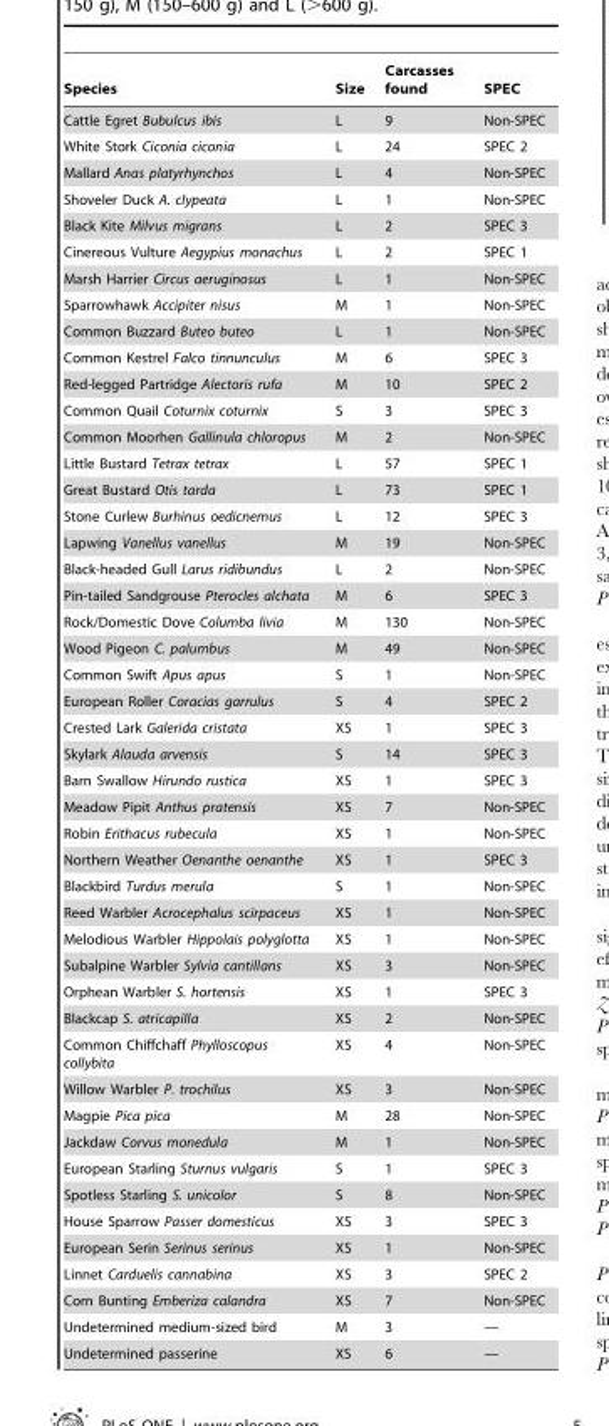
<table><thead><tr><td>Species</td><td>Size</td><td>Carcasses found</td><td>SPEC</td></tr></thead><tbody><tr><td>Cattle Egret Bubulcus ibis</td><td>L</td><td>9</td><td>Non-SPEC</td></tr><tr><td>White Stork Ciconia ciconia</td><td>L</td><td>24</td><td>SPEC 2</td></tr><tr><td>Mallard Anas platyrhynchos</td><td>L</td><td>4</td><td>Non-SPEC</td></tr><tr><td>Shoveler Duck A. clypeata</td><td>L</td><td>1</td><td>Non-SPEC</td></tr><tr><td>Black Kite Milvus migrans</td><td>L</td><td>2</td><td>SPEC 3</td></tr><tr><td>Cinereous Vulture Aegypius monachus</td><td>L</td><td>2</td><td>SPEC 1</td></tr><tr><td>Marsh Harrier Circus aeruginosus</td><td>L</td><td>1</td><td>Non-SPEC</td></tr><tr><td>Sparrowhawk Accipiter nisus</td><td>M</td><td>1</td><td>Non-SPEC</td></tr><tr><td>Common Buzzard Buteo buteo</td><td>L</td><td>1</td><td>Non-SPEC</td></tr><tr><td>Common Kestrel Falco tinnunculus</td><td>M</td><td>6</td><td>SPEC 3</td></tr><tr><td>Red-legged Partridge Alectoris rufa</td><td>M</td><td>10</td><td>SPEC 2</td></tr><tr><td>Common Quail Coturnix coturnix</td><td>S</td><td>3</td><td>SPEC 3</td></tr><tr><td>Common Moorhen Gallinula chloropus</td><td>M</td><td>2</td><td>Non-SPEC</td></tr><tr><td>Little Bustard Tetrax tetrax</td><td>L</td><td>57</td><td>SPEC 1</td></tr><tr><td>Great Bustard Otis tarda</td><td>L</td><td>73</td><td>SPEC 1</td></tr><tr><td>Stone Curlew Burhinus oedicnemus</td><td>L</td><td>12</td><td>SPEC 3</td></tr><tr><td>Lapwing Vanellus vanellus</td><td>M</td><td>19</td><td>Non-SPEC</td></tr><tr><td>Black-headed Gull Larus ridibundus</td><td>L</td><td>2</td><td>Non-SPEC</td></tr><tr><td>Pin-tailed Sandgrouse Pterocles alchata</td><td>M</td><td>6</td><td>SPEC 3</td></tr><tr><td>Rock/Domestic Dove Columba livia</td><td>M</td><td>130</td><td>Non-SPEC</td></tr><tr><td>Wood Pigeon C. palumbus</td><td>M</td><td>49</td><td>Non-SPEC</td></tr><tr><td>Common Swift Apus apus</td><td>S</td><td>1</td><td>Non-SPEC</td></tr><tr><td>European Roller Coracias garrulus</td><td>S</td><td>4</td><td>SPEC 2</td></tr><tr><td>Crested Lark Galerida cristata</td><td>XS</td><td>1</td><td>SPEC 3</td></tr><tr><td>Skylark Alauda arvensis</td><td>S</td><td>14</td><td>SPEC 3</td></tr><tr><td>Barn Swallow Hirundo rustica</td><td>XS</td><td>1</td><td>SPEC 3</td></tr><tr><td>Meadow Pipit Anthus pratensis</td><td>XS</td><td>7</td><td>Non-SPEC</td></tr><tr><td>Robin Erithacus rubecula</td><td>XS</td><td>1</td><td>Non-SPEC</td></tr><tr><td>Northern Weather Oenanthe oenanthe</td><td>XS</td><td>1</td><td>SPEC 3</td></tr><tr><td>Blackbird Turdus merula</td><td>S</td><td>1</td><td>Non-SPEC</td></tr><tr><td>Reed Warbler Acrocephalus scirpaceus</td><td>XS</td><td>1</td><td>Non-SPEC</td></tr><tr><td>Melodious Warbler Hippolais polyglotta</td><td>XS</td><td>1</td><td>Non-SPEC</td></tr><tr><td>Subalpine Warbler Sylvia cantillans</td><td>XS</td><td>3</td><td>Non-SPEC</td></tr><tr><td>Orphean Warbler S. hortensis</td><td>XS</td><td>1</td><td>SPEC 3</td></tr><tr><td>Blackcap S. atricapilla</td><td>XS</td><td>2</td><td>Non-SPEC</td></tr><tr><td>Common Chiffchaff Phylloscopus collybita</td><td>XS</td><td>4</td><td>Non-SPEC</td></tr><tr><td>Willow Warbler P. trochilus</td><td>XS</td><td>3</td><td>Non-SPEC</td></tr><tr><td>Magpie Pica pica</td><td>M</td><td>28</td><td>Non-SPEC</td></tr><tr><td>Jackdaw Corvus monedula</td><td>M</td><td>1</td><td>Non-SPEC</td></tr><tr><td>European Starling Sturnus vulgaris</td><td>S</td><td>1</td><td>SPEC 3</td></tr><tr><td>Spotless Starling S. unicolor</td><td>S</td><td>8</td><td>Non-SPEC</td></tr><tr><td>House Sparrow Passer domesticus</td><td>XS</td><td>3</td><td>SPEC 3</td></tr><tr><td>European Serin Serinus serinus</td><td>XS</td><td>1</td><td>Non-SPEC</td></tr><tr><td>Linnet Carduelis cannabina</td><td>XS</td><td>3</td><td>SPEC 2</td></tr><tr><td>Corn Bunting Emberiza calandra</td><td>XS</td><td>7</td><td>Non-SPEC</td></tr><tr><td>Undetermined medium-sized bird</td><td>M</td><td>3</td><td>—</td></tr><tr><td>Undetermined passerine</td><td>XS</td><td>6</td><td>—</td></tr></tbody></table>